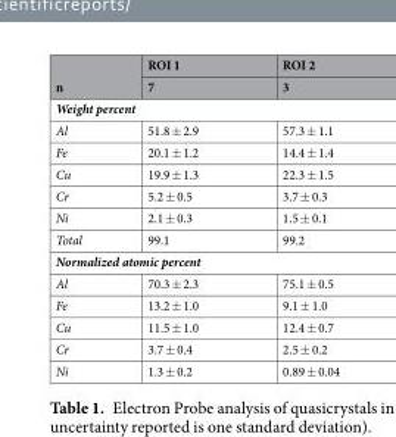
<table><thead><tr><td rowspan="2">n</td><td rowspan="2">ROI 1 7</td><td rowspan="2">ROI 2 3</td></tr><tr></tr></thead><tbody><tr><td colspan="3">Weight percent</td></tr><tr><td>Al</td><td>51.8 ± 2.9</td><td>57.3 ± 1.1</td></tr><tr><td>Fe</td><td>20.1 ± 1.2</td><td>14.4 ± 1.4</td></tr><tr><td>Cu</td><td>19.9 ± 1.3</td><td>22.3 ± 1.5</td></tr><tr><td>Cr</td><td>5.2 ± 0.5</td><td>3.7 ± 0.3</td></tr><tr><td>Ni</td><td>2.1 ± 0.3</td><td>1.5 ± 0.1</td></tr><tr><td>Total</td><td>99.1</td><td>99.2</td></tr><tr><td colspan="3">Normalized atomic percent</td></tr><tr><td>Al</td><td>70.3 ± 2.3</td><td>75.1 ± 0.5</td></tr><tr><td>Fe</td><td>13.2 ± 1.0</td><td>9.1 ± 1.0</td></tr><tr><td>Cu</td><td>11.5 ± 1.0</td><td>12.4 ± 0.7</td></tr><tr><td>Cr</td><td>3.7 ± 0.4</td><td>2.5 ± 0.2</td></tr><tr><td>Ni</td><td>1.3 ± 0.2</td><td>0.89 ± 0.04</td></tr></tbody></table>